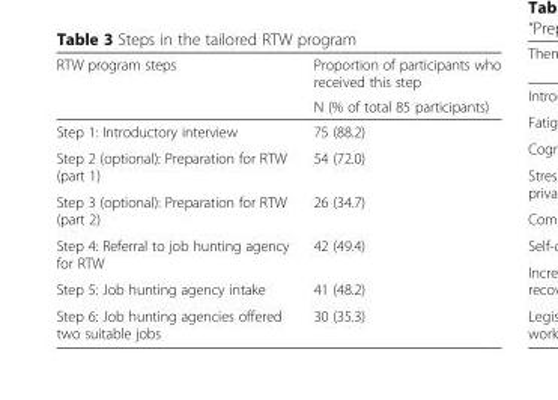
<table><thead><tr><td rowspan="2">RTW program steps</td><td rowspan="2">Proportion of participants who received this step N (% of total 85 participants)</td></tr><tr></tr></thead><tbody><tr><td>Step 1: Introductory interview</td><td>75 (88.2)</td></tr><tr><td>Step 2 (optional): Preparation for RTW (part 1)</td><td>54 (72.0)</td></tr><tr><td>Step 3 (optional): Preparation for RTW (part 2)</td><td>26 (34.7)</td></tr><tr><td>Step 4: Referral to job hunting agency for RTW</td><td>42 (49.4)</td></tr><tr><td>Step 5: Job hunting agency intake</td><td>41 (48.2)</td></tr><tr><td>Step 6: Job hunting agencies offered two suitable jobs</td><td>30 (35.3)</td></tr></tbody></table>